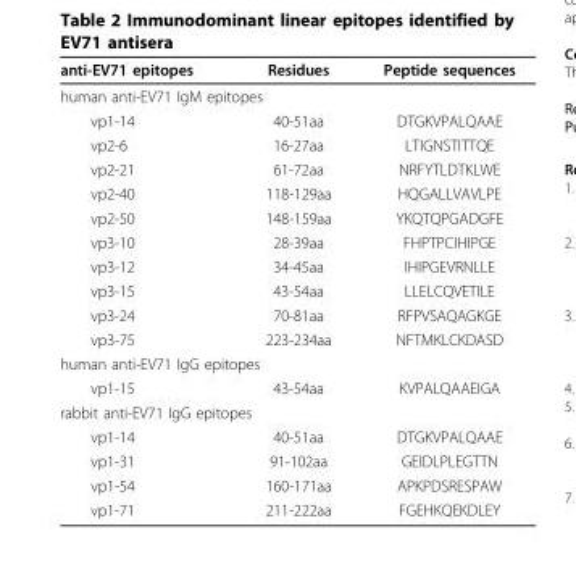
<table><thead><tr><td>anti-EV71 epitopes</td><td>Residues</td><td>Peptide sequences</td></tr></thead><tbody><tr><td colspan="3">human anti-EV71 IgM epitopes</td></tr><tr><td>vp1-14</td><td>40-51aa</td><td>DTGKVPALQAAE</td></tr><tr><td>vp2-6</td><td>16-27aa</td><td>LTIGNSTITTQE</td></tr><tr><td>vp2-21</td><td>61-72aa</td><td>NRFYTLDTKLWE</td></tr><tr><td>vp2-40</td><td>118-129aa</td><td>HQGALLVAVLPE</td></tr><tr><td>vp2-50</td><td>148-159aa</td><td>YKQTQPGADGFE</td></tr><tr><td>vp3-10</td><td>28-39aa</td><td>FHPTPCIHIPGE</td></tr><tr><td>vp3-12</td><td>34-45aa</td><td>IHIPGEVRNLLE</td></tr><tr><td>vp3-15</td><td>43-54aa</td><td>LLELCQVETILE</td></tr><tr><td>vp3-24</td><td>70-81aa</td><td>RFPVSAQAGKGE</td></tr><tr><td>vp3-75</td><td>223-234aa</td><td>NFTMKLCKDASD</td></tr><tr><td colspan="3">human anti-EV71 IgG epitopes</td></tr><tr><td>vp1-15</td><td>43-54aa</td><td>KVPALQAAEIGA</td></tr><tr><td colspan="3">rabbit anti-EV71 IgG epitopes</td></tr><tr><td>vp1-14</td><td>40-51aa</td><td>DTGKVPALQAAE</td></tr><tr><td>vp1-31</td><td>91-102aa</td><td>GEIDLPLEGTTN</td></tr><tr><td>vp1-54</td><td>160-171aa</td><td>APKPDSRESPAW</td></tr><tr><td>vp1-71</td><td>211-222aa</td><td>FGEHKQEKDLEY</td></tr></tbody></table>